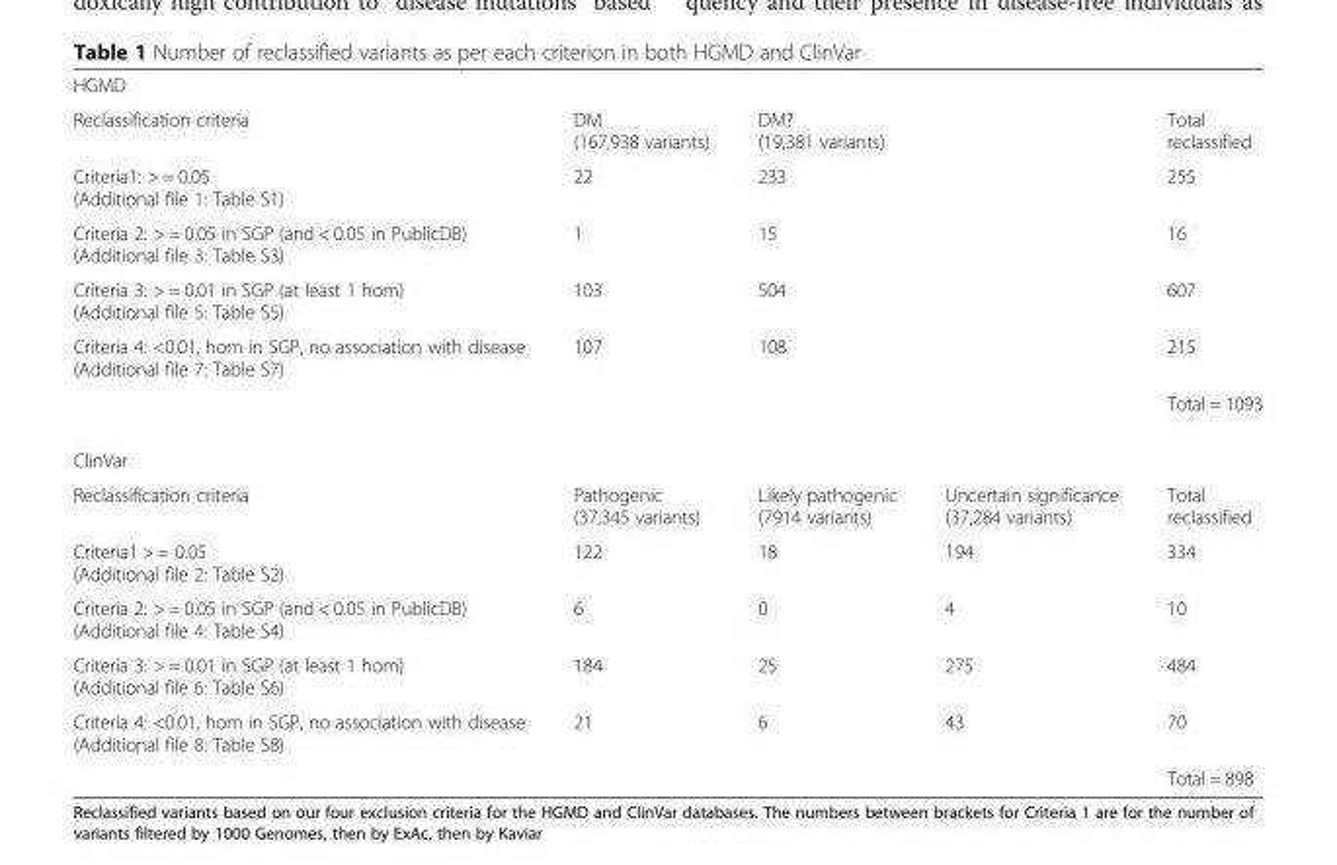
<table><tbody><tr><td colspan="5">HGMD</td></tr><tr><td>Reclassification criteria</td><td>DM (167,938 variants)</td><td colspan="2">DM? (19,381 variants)</td><td>Total reclassified</td></tr><tr><td>Criteria1: &gt; = 0.05 (Additional file 1: Table S1)</td><td>22</td><td colspan="2">233</td><td>255</td></tr><tr><td>Criteria 2: &gt; = 0.05 in SGP (and &lt; 0.05 in PublicDB) (Additional file 3: Table S3)</td><td>1</td><td colspan="2">15</td><td>16</td></tr><tr><td>Criteria 3: &gt; = 0.01 in SGP (at least 1 hom) (Additional file 5: Table S5)</td><td>103</td><td colspan="2">504</td><td>607</td></tr><tr><td>Criteria 4: &lt;0.01, hom in SGP, no association with disease (Additional file 7: Table S7)</td><td>107</td><td colspan="2">108</td><td>215</td></tr><tr><td colspan="4"></td><td>Total = 1093</td></tr><tr><td colspan="5">ClinVar</td></tr><tr><td>Reclassification criteria</td><td>Pathogenic (37,345 variants)</td><td>Likely pathogenic (7914 variants)</td><td>Uncertain significance (37,284 variants)</td><td>Total reclassified</td></tr><tr><td>Criteria1 &gt; = 0.05 (Additional file 2: Table S2)</td><td>122</td><td>18</td><td>194</td><td>334</td></tr><tr><td>Criteria 2: &gt; = 0.05 in SGP (and &lt; 0.05 in PublicDB) (Additional file 4: Table S4)</td><td>6</td><td>0</td><td>4</td><td>10</td></tr><tr><td>Criteria 3: &gt; = 0.01 in SGP (at least 1 hom) (Additional file 6: Table S6)</td><td>184</td><td>25</td><td>275</td><td>484</td></tr><tr><td>Criteria 4: &lt;0.01, hom in SGP, no association with disease (Additional file 8: Table S8)</td><td>21</td><td>6</td><td>43</td><td>70</td></tr><tr><td colspan="4"></td><td>Total = 898</td></tr></tbody></table>